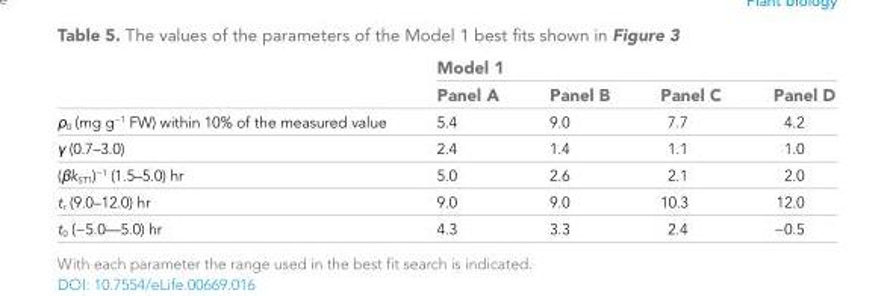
<table><thead><tr><td rowspan="2"></td><td colspan="4">Model 1</td></tr><tr><td>Panel A</td><td>Panel B</td><td>Panel C</td><td>Panel D</td></tr></thead><tbody><tr><td>ρ<sub>0</sub> (mg g<sup>−1</sup> FW) within 10% of the measured value</td><td>5.4</td><td>9.0</td><td>7.7</td><td>4.2</td></tr><tr><td>γ (0.7–3.0)</td><td>2.4</td><td>1.4</td><td>1.1</td><td>1.0</td></tr><tr><td>(βk<sub>ST1</sub>)<sup>−1</sup> (1.5–5.0) hr</td><td>5.0</td><td>2.6</td><td>2.1</td><td>2.0</td></tr><tr><td>t<sub>r</sub> (9.0–12.0) hr</td><td>9.0</td><td>9.0</td><td>10.3</td><td>12.0</td></tr><tr><td>t<sub>0</sub> (−5.0—5.0) hr</td><td>4.3</td><td>3.3</td><td>2.4</td><td>−0.5</td></tr></tbody></table>